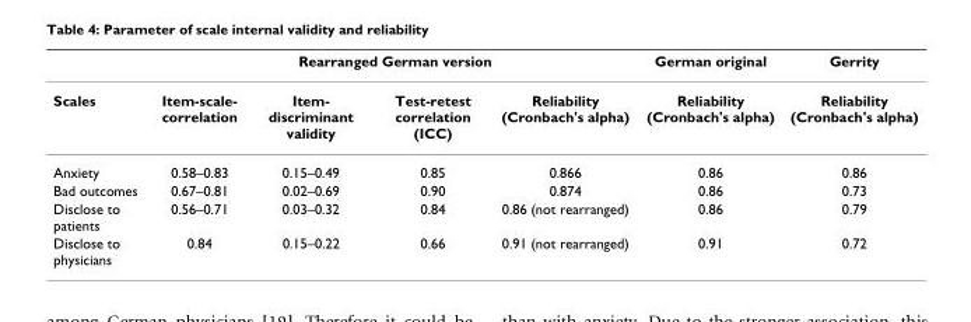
<table><thead><tr><td rowspan="2">Scales</td><td colspan="4">Rearranged German version</td><td rowspan="2">German original Reliability (Cronbach&#x27;s alpha)</td><td rowspan="2">Gerrity Reliability (Cronbach&#x27;s alpha)</td></tr><tr><td>Item-scale- correlation</td><td>Item- discriminant validity</td><td>Test-retest correlation (ICC)</td><td>Reliability (Cronbach&#x27;s alpha)</td></tr></thead><tbody><tr><td>Anxiety</td><td>0.58–0.83</td><td>0.15–0.49</td><td>0.85</td><td>0.866</td><td>0.86</td><td>0.86</td></tr><tr><td>Bad outcomes</td><td>0.67–0.81</td><td>0.02–0.69</td><td>0.90</td><td>0.874</td><td>0.86</td><td>0.73</td></tr><tr><td>Disclose to patients</td><td>0.56–0.71</td><td>0.03–0.32</td><td>0.84</td><td>0.86 (not rearranged)</td><td>0.86</td><td>0.79</td></tr><tr><td>Disclose to physicians</td><td>0.84</td><td>0.15–0.22</td><td>0.66</td><td>0.91 (not rearranged)</td><td>0.91</td><td>0.72</td></tr></tbody></table>